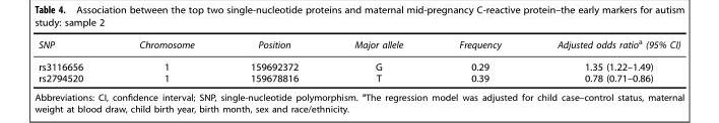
<table><thead><tr><td>SNP</td><td>Chromosome</td><td>Position</td><td>Major allele</td><td>Frequency</td><td>Adjusted odds ratio<sup>a</sup> (95% CI)</td></tr></thead><tbody><tr><td>rs3116656</td><td>1</td><td>159692372</td><td>G</td><td>0.29</td><td>1.35 (1.22–1.49)</td></tr><tr><td>rs2794520</td><td>1</td><td>159678816</td><td>T</td><td>0.39</td><td>0.78 (0.71–0.86)</td></tr></tbody></table>